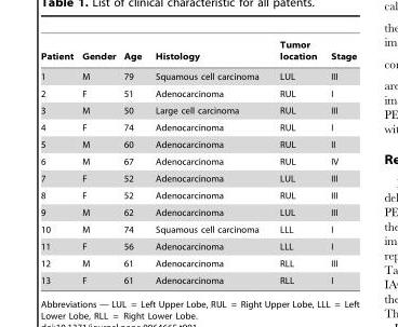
<table><thead><tr><td>Patient</td><td>Gender</td><td>Age</td><td>Histology</td><td>Tumor location</td><td>Stage</td></tr></thead><tbody><tr><td>1</td><td>M</td><td>79</td><td>Squamous cell carcinoma</td><td>LUL</td><td>III</td></tr><tr><td>2</td><td>F</td><td>51</td><td>Adenocarcinoma</td><td>RUL</td><td>I</td></tr><tr><td>3</td><td>M</td><td>50</td><td>Large cell carcinoma</td><td>RUL</td><td>III</td></tr><tr><td>4</td><td>F</td><td>74</td><td>Adenocarcinoma</td><td>RUL</td><td>I</td></tr><tr><td>5</td><td>M</td><td>60</td><td>Adenocarcinoma</td><td>RUL</td><td>II</td></tr><tr><td>6</td><td>M</td><td>67</td><td>Adenocarcinoma</td><td>RUL</td><td>IV</td></tr><tr><td>7</td><td>F</td><td>52</td><td>Adenocarcinoma</td><td>LUL</td><td>III</td></tr><tr><td>8</td><td>F</td><td>52</td><td>Adenocarcinoma</td><td>RUL</td><td>III</td></tr><tr><td>9</td><td>M</td><td>62</td><td>Adenocarcinoma</td><td>LUL</td><td>III</td></tr><tr><td>10</td><td>M</td><td>74</td><td>Squamous cell carcinoma</td><td>LLL</td><td>I</td></tr><tr><td>11</td><td>F</td><td>56</td><td>Adenocarcinoma</td><td>LLL</td><td>I</td></tr><tr><td>12</td><td>M</td><td>61</td><td>Adenocarcinoma</td><td>RLL</td><td>III</td></tr><tr><td>13</td><td>F</td><td>61</td><td>Adenocarcinoma</td><td>RLL</td><td>I</td></tr></tbody></table>